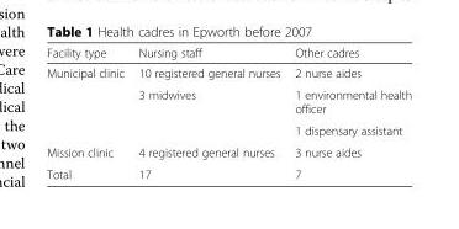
<table><thead><tr><td>Facility type</td><td>Nursing staff</td><td>Other cadres</td></tr></thead><tbody><tr><td rowspan="3">Municipal clinic</td><td>10 registered general nurses</td><td>2 nurse aides</td></tr><tr><td rowspan="2">3 midwives</td><td>1 environmental health officer</td></tr><tr><td>1 dispensary assistant</td></tr><tr><td>Mission clinic</td><td>4 registered general nurses</td><td>3 nurse aides</td></tr><tr><td>Total</td><td>17</td><td>7</td></tr></tbody></table>